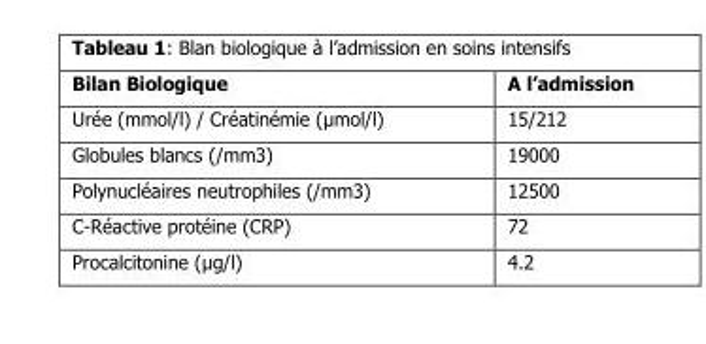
<table><thead><tr><td>Bilan Biologique</td><td>A l’admission</td></tr></thead><tbody><tr><td>Urée (mmol/l) / Créatinémie (µmol/l)</td><td>15/212</td></tr><tr><td>Globules blancs (/mm3)</td><td>19000</td></tr><tr><td>Polynucléaires neutrophiles (/mm3)</td><td>12500</td></tr><tr><td>C-Réactive protéine (CRP)</td><td>72</td></tr><tr><td>Procalcitonine (µg/l)</td><td>4.2</td></tr></tbody></table>